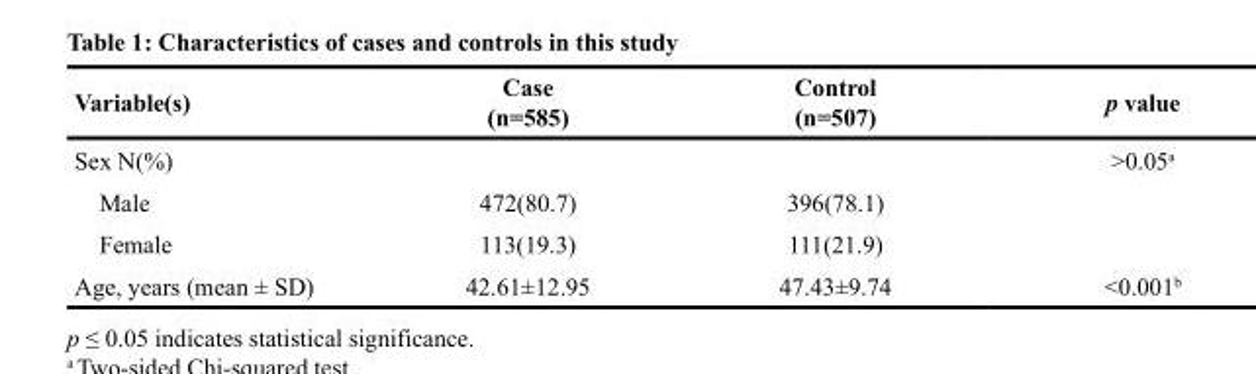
<table><thead><tr><td>Variable(s)</td><td>Case (n=585)</td><td>Control (n=507)</td><td>p value</td></tr></thead><tbody><tr><td>Sex N(%)</td><td></td><td></td><td>&gt;0.05<sup>a</sup></td></tr><tr><td>Male</td><td>472(80.7)</td><td>396(78.1)</td><td></td></tr><tr><td>Female</td><td>113(19.3)</td><td>111(21.9)</td><td></td></tr><tr><td>Age, years (mean ± SD)</td><td>42.61±12.95</td><td>47.43±9.74</td><td>&lt;0.001<sup>b</sup></td></tr></tbody></table>